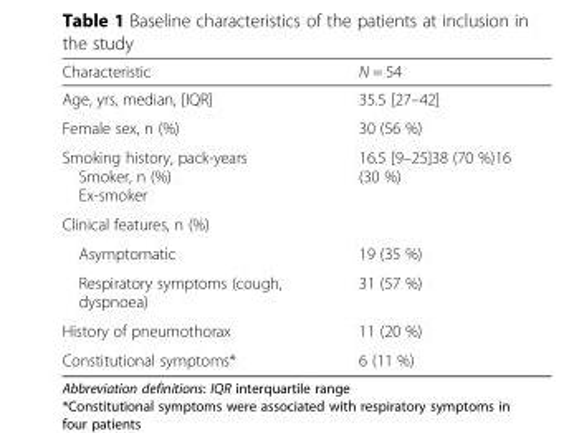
<table><thead><tr><td>Characteristic</td><td>N = 54</td></tr></thead><tbody><tr><td>Age, yrs, median, [IQR]</td><td>35.5 [27–42]</td></tr><tr><td>Female sex, n (%)</td><td>30 (56 %)</td></tr><tr><td>Smoking history, pack-years Smoker, n (%) Ex-smoker</td><td>16.5 [9–25]38 (70 %)16 (30 %)</td></tr><tr><td colspan="2">Clinical features, n (%)</td></tr><tr><td>Asymptomatic</td><td>19 (35 %)</td></tr><tr><td>Respiratory symptoms (cough, dyspnoea)</td><td>31 (57 %)</td></tr><tr><td>History of pneumothorax</td><td>11 (20 %)</td></tr><tr><td>Constitutional symptoms*</td><td>6 (11 %)</td></tr></tbody></table>